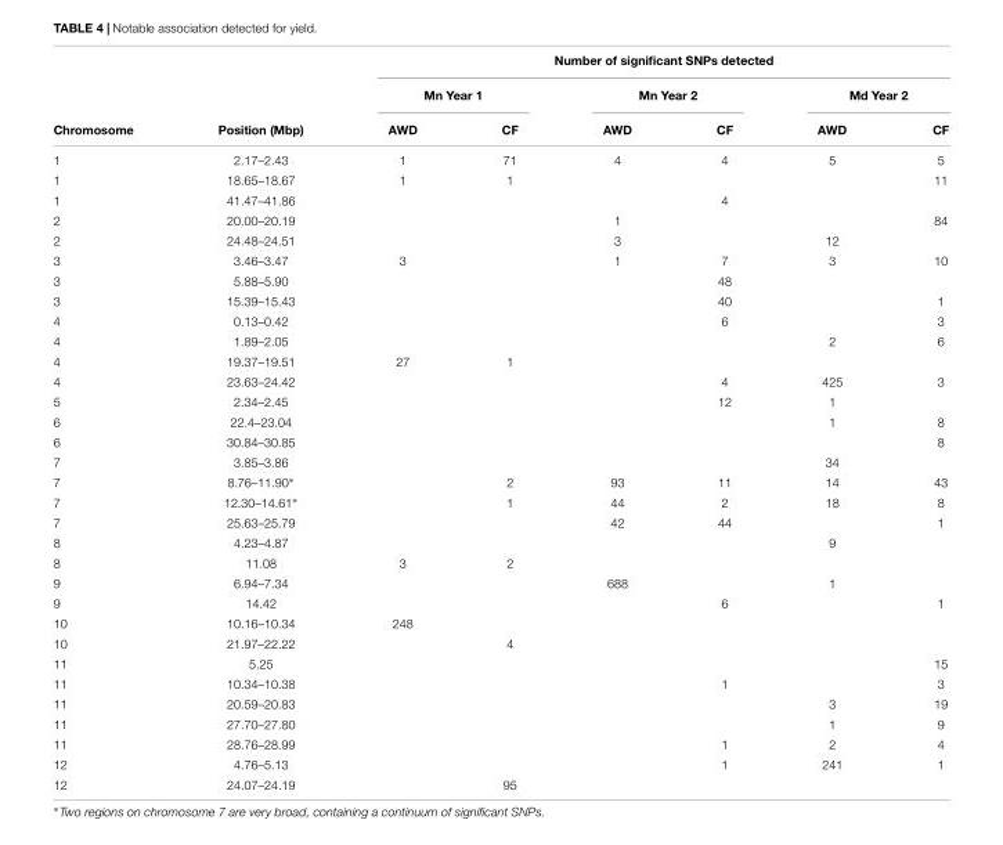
<table><thead><tr><td rowspan="3">Chromosome</td><td rowspan="3">Position (Mbp)</td><td colspan="6">Number of significant SNPs detected</td></tr><tr><td colspan="2">Mn Year 1</td><td colspan="2">Mn Year 2</td><td colspan="2">Md Year 2</td></tr><tr><td>AWD</td><td>CF</td><td>AWD</td><td>CF</td><td>AWD</td><td>CF</td></tr></thead><tbody><tr><td>1</td><td>2.17–2.43</td><td>1</td><td>71</td><td>4</td><td>4</td><td>5</td><td>5</td></tr><tr><td>1</td><td>18.65–18.67</td><td>1</td><td>1</td><td></td><td></td><td></td><td>11</td></tr><tr><td>1</td><td>41.47–41.86</td><td></td><td></td><td></td><td>4</td><td></td><td></td></tr><tr><td>2</td><td>20.00–20.19</td><td></td><td></td><td>1</td><td></td><td></td><td>84</td></tr><tr><td>2</td><td>24.48–24.51</td><td></td><td></td><td>3</td><td></td><td>12</td><td></td></tr><tr><td>3</td><td>3.46–3.47</td><td>3</td><td></td><td>1</td><td>7</td><td>3</td><td>10</td></tr><tr><td>3</td><td>5.88–5.90</td><td></td><td></td><td></td><td>48</td><td></td><td></td></tr><tr><td>3</td><td>15.39–15.43</td><td></td><td></td><td></td><td>40</td><td></td><td>1</td></tr><tr><td>4</td><td>0.13–0.42</td><td></td><td></td><td></td><td>6</td><td></td><td>3</td></tr><tr><td>4</td><td>1.89–2.05</td><td></td><td></td><td></td><td></td><td>2</td><td>6</td></tr><tr><td>4</td><td>19.37–19.51</td><td>27</td><td>1</td><td></td><td></td><td></td><td></td></tr><tr><td>4</td><td>23.63–24.42</td><td></td><td></td><td></td><td>4</td><td>425</td><td>3</td></tr><tr><td>5</td><td>2.34–2.45</td><td></td><td></td><td></td><td>12</td><td>1</td><td></td></tr><tr><td>6</td><td>22.4–23.04</td><td></td><td></td><td></td><td></td><td>1</td><td>8</td></tr><tr><td>6</td><td>30.84–30.85</td><td></td><td></td><td></td><td></td><td></td><td>8</td></tr><tr><td>7</td><td>3.85–3.86</td><td></td><td></td><td></td><td></td><td>34</td><td></td></tr><tr><td>7</td><td>8.76–11.90∗</td><td></td><td>2</td><td>93</td><td>11</td><td>14</td><td>43</td></tr><tr><td>7</td><td>12.30–14.61∗</td><td></td><td>1</td><td>44</td><td>2</td><td>18</td><td>8</td></tr><tr><td>7</td><td>25.63–25.79</td><td></td><td></td><td>42</td><td>44</td><td></td><td>1</td></tr><tr><td>8</td><td>4.23–4.87</td><td></td><td></td><td></td><td></td><td>9</td><td></td></tr><tr><td>8</td><td>11.08</td><td>3</td><td>2</td><td></td><td></td><td></td><td></td></tr><tr><td>9</td><td>6.94–7.34</td><td></td><td></td><td>688</td><td></td><td>1</td><td></td></tr><tr><td>9</td><td>14.42</td><td></td><td></td><td></td><td>6</td><td></td><td>1</td></tr><tr><td>10</td><td>10.16–10.34</td><td>248</td><td></td><td></td><td></td><td></td><td></td></tr><tr><td>10</td><td>21.97–22.22</td><td></td><td>4</td><td></td><td></td><td></td><td></td></tr><tr><td>11</td><td>5.25</td><td></td><td></td><td></td><td></td><td></td><td>15</td></tr><tr><td>11</td><td>10.34–10.38</td><td></td><td></td><td></td><td>1</td><td></td><td>3</td></tr><tr><td>11</td><td>20.59–20.83</td><td></td><td></td><td></td><td></td><td>3</td><td>19</td></tr><tr><td>11</td><td>27.70–27.80</td><td></td><td></td><td></td><td></td><td>1</td><td>9</td></tr><tr><td>11</td><td>28.76–28.99</td><td></td><td></td><td></td><td>1</td><td>2</td><td>4</td></tr><tr><td>12</td><td>4.76–5.13</td><td></td><td></td><td></td><td>1</td><td>241</td><td>1</td></tr><tr><td>12</td><td>24.07–24.19</td><td></td><td>95</td><td></td><td></td><td></td><td></td></tr></tbody></table>